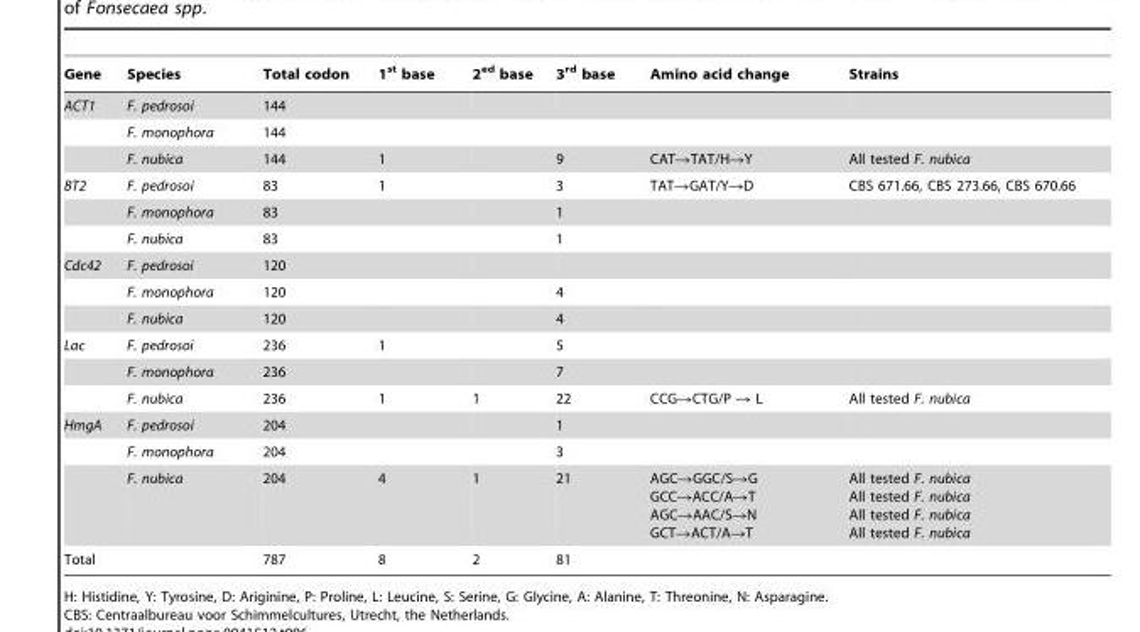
<table><thead><tr><td>Gene</td><td>Species</td><td>Total codon</td><td>1<sup>st</sup> base</td><td>2<sup>ed</sup> base</td><td>3<sup>rd</sup> base</td><td>Amino acid change</td><td>Strains</td></tr></thead><tbody><tr><td rowspan="3">ACT1</td><td>F. pedrosoi</td><td>144</td><td></td><td></td><td></td><td></td><td></td></tr><tr><td>F. monophora</td><td>144</td><td></td><td></td><td></td><td></td><td></td></tr><tr><td>F. nubica</td><td>144</td><td>1</td><td></td><td>9</td><td>CAT→TAT/H→Y</td><td>All tested F. nubica</td></tr><tr><td rowspan="3">BT2</td><td>F. pedrosoi</td><td>83</td><td>1</td><td></td><td>3</td><td>TAT→GAT/Y→D</td><td>CBS 671.66, CBS 273.66, CBS 670.66</td></tr><tr><td>F. monophora</td><td>83</td><td></td><td></td><td>1</td><td></td><td></td></tr><tr><td>F. nubica</td><td>83</td><td></td><td></td><td>1</td><td></td><td></td></tr><tr><td rowspan="3">Cdc42</td><td>F. pedrosoi</td><td>120</td><td></td><td></td><td></td><td></td><td></td></tr><tr><td>F. monophora</td><td>120</td><td></td><td></td><td>4</td><td></td><td></td></tr><tr><td>F. nubica</td><td>120</td><td></td><td></td><td>4</td><td></td><td></td></tr><tr><td rowspan="3">Lac</td><td>F. pedrosoi</td><td>236</td><td>1</td><td></td><td>5</td><td></td><td></td></tr><tr><td>F. monophora</td><td>236</td><td></td><td></td><td>7</td><td></td><td></td></tr><tr><td>F. nubica</td><td>236</td><td>1</td><td>1</td><td>22</td><td>CCG→CTG/P → L</td><td>All tested F. nubica</td></tr><tr><td rowspan="3">HmgA</td><td>F. pedrosoi</td><td>204</td><td></td><td></td><td>1</td><td></td><td></td></tr><tr><td>F. monophora</td><td>204</td><td></td><td></td><td>3</td><td></td><td></td></tr><tr><td>F. nubica</td><td>204</td><td>4</td><td>1</td><td>21</td><td>AGC→GGC/S→G GCC→ACC/A→T AGC→AAC/S→N GCT→ACT/A→T</td><td>All tested F. nubica All tested F. nubica All tested F. nubica All tested F. nubica</td></tr><tr><td>Total</td><td></td><td>787</td><td>8</td><td>2</td><td>81</td><td></td><td></td></tr></tbody></table>